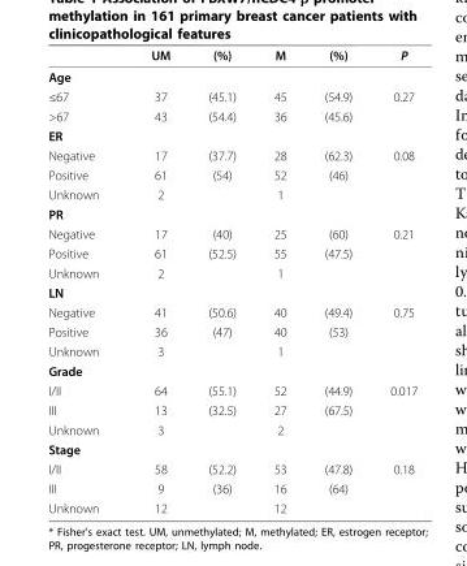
<table><thead><tr><td></td><td>UM</td><td>(%)</td><td>M</td><td>(%)</td><td>P</td></tr></thead><tbody><tr><td colspan="6">Age</td></tr><tr><td>≤67</td><td>37</td><td>(45.1)</td><td>45</td><td>(54.9)</td><td>0.27</td></tr><tr><td>&gt;67</td><td>43</td><td>(54.4)</td><td>36</td><td>(45.6)</td><td></td></tr><tr><td colspan="6">ER</td></tr><tr><td>Negative</td><td>17</td><td>(37.7)</td><td>28</td><td>(62.3)</td><td>0.08</td></tr><tr><td>Positive</td><td>61</td><td>(54)</td><td>52</td><td>(46)</td><td></td></tr><tr><td>Unknown</td><td>2</td><td></td><td>1</td><td></td><td></td></tr><tr><td colspan="6">PR</td></tr><tr><td>Negative</td><td>17</td><td>(40)</td><td>25</td><td>(60)</td><td>0.21</td></tr><tr><td>Positive</td><td>61</td><td>(52.5)</td><td>55</td><td>(47.5)</td><td></td></tr><tr><td>Unknown</td><td>2</td><td></td><td>1</td><td></td><td></td></tr><tr><td colspan="6">LN</td></tr><tr><td>Negative</td><td>41</td><td>(50.6)</td><td>40</td><td>(49.4)</td><td>0.75</td></tr><tr><td>Positive</td><td>36</td><td>(47)</td><td>40</td><td>(53)</td><td></td></tr><tr><td>Unknown</td><td>3</td><td></td><td>1</td><td></td><td></td></tr><tr><td colspan="6">Grade</td></tr><tr><td>I/II</td><td>64</td><td>(55.1)</td><td>52</td><td>(44.9)</td><td>0.017</td></tr><tr><td>III</td><td>13</td><td>(32.5)</td><td>27</td><td>(67.5)</td><td></td></tr><tr><td>Unknown</td><td>3</td><td></td><td>2</td><td></td><td></td></tr><tr><td colspan="6">Stage</td></tr><tr><td>I/II</td><td>58</td><td>(52.2)</td><td>53</td><td>(47.8)</td><td>0.18</td></tr><tr><td>III</td><td>9</td><td>(36)</td><td>16</td><td>(64)</td><td></td></tr><tr><td>Unknown</td><td>12</td><td></td><td>12</td><td></td><td></td></tr></tbody></table>